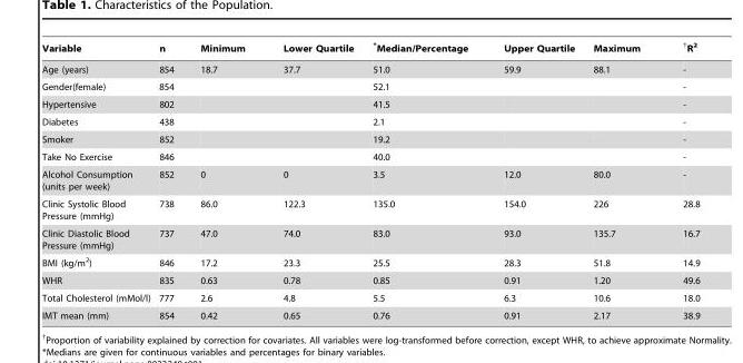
<table><thead><tr><td>Variable</td><td>n</td><td>Minimum</td><td>Lower Quartile</td><td>*Median/Percentage</td><td>Upper Quartile</td><td>Maximum</td><td>†R<sup>2</sup></td></tr></thead><tbody><tr><td>Age (years)</td><td>854</td><td>18.7</td><td>37.7</td><td>51.0</td><td>59.9</td><td>88.1</td><td>-</td></tr><tr><td>Gender(female)</td><td>854</td><td></td><td></td><td>52.1</td><td></td><td></td><td>-</td></tr><tr><td>Hypertensive</td><td>802</td><td></td><td></td><td>41.5</td><td></td><td></td><td>-</td></tr><tr><td>Diabetes</td><td>438</td><td></td><td></td><td>2.1</td><td></td><td></td><td>-</td></tr><tr><td>Smoker</td><td>852</td><td></td><td></td><td>19.2</td><td></td><td></td><td>-</td></tr><tr><td>Take No Exercise</td><td>846</td><td></td><td></td><td>40.0</td><td></td><td></td><td>-</td></tr><tr><td>Alcohol Consumption (units per week)</td><td>852</td><td>0</td><td>0</td><td>3.5</td><td>12.0</td><td>80.0</td><td>-</td></tr><tr><td>Clinic Systolic Blood Pressure (mmHg)</td><td>738</td><td>86.0</td><td>122.3</td><td>135.0</td><td>154.0</td><td>226</td><td>28.8</td></tr><tr><td>Clinic Diastolic Blood Pressure (mmHg)</td><td>737</td><td>47.0</td><td>74.0</td><td>83.0</td><td>93.0</td><td>135.7</td><td>16.7</td></tr><tr><td>BMI (kg/m<sup>2</sup>)</td><td>846</td><td>17.2</td><td>23.3</td><td>25.5</td><td>28.3</td><td>51.8</td><td>14.9</td></tr><tr><td>WHR</td><td>835</td><td>0.63</td><td>0.78</td><td>0.85</td><td>0.91</td><td>1.20</td><td>49.6</td></tr><tr><td>Total Cholesterol (mMol/l)</td><td>777</td><td>2.6</td><td>4.8</td><td>5.5</td><td>6.3</td><td>10.6</td><td>18.0</td></tr><tr><td>IMT mean (mm)</td><td>854</td><td>0.42</td><td>0.65</td><td>0.76</td><td>0.91</td><td>2.17</td><td>38.9</td></tr></tbody></table>